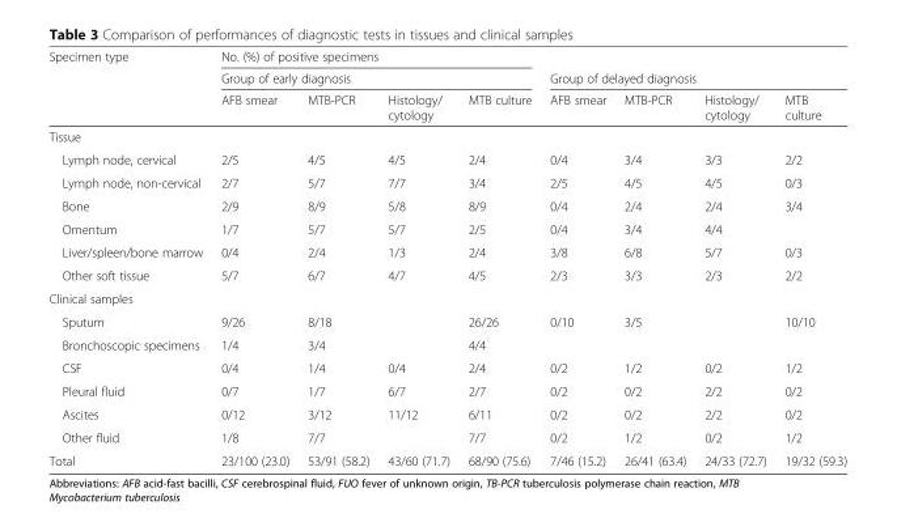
<table><thead><tr><td rowspan="3">Specimen type</td><td rowspan="2" colspan="4">No. (%) of positive specimens Group of early diagnosis</td><td></td><td></td><td></td><td></td></tr><tr><td colspan="4">Group of delayed diagnosis</td></tr><tr><td>AFB smear</td><td>MTB-PCR</td><td>Histology/ cytology</td><td>MTB culture</td><td>AFB smear</td><td>MTB-PCR</td><td>Histology/ cytology</td><td>MTB culture</td></tr></thead><tbody><tr><td colspan="9">Tissue</td></tr><tr><td>Lymph node, cervical</td><td>2/5</td><td>4/5</td><td>4/5</td><td>2/4</td><td>0/4</td><td>3/4</td><td>3/3</td><td>2/2</td></tr><tr><td>Lymph node, non-cervical</td><td>2/7</td><td>5/7</td><td>7/7</td><td>3/4</td><td>2/5</td><td>4/5</td><td>4/5</td><td>0/3</td></tr><tr><td>Bone</td><td>2/9</td><td>8/9</td><td>5/8</td><td>8/9</td><td>0/4</td><td>2/4</td><td>2/4</td><td>3/4</td></tr><tr><td>Omentum</td><td>1/7</td><td>5/7</td><td>5/7</td><td>2/5</td><td>0/4</td><td>3/4</td><td>4/4</td><td></td></tr><tr><td>Liver/spleen/bone marrow</td><td>0/4</td><td>2/4</td><td>1/3</td><td>2/4</td><td>3/8</td><td>6/8</td><td>5/7</td><td>0/3</td></tr><tr><td>Other soft tissue</td><td>5/7</td><td>6/7</td><td>4/7</td><td>4/5</td><td>2/3</td><td>3/3</td><td>2/3</td><td>2/2</td></tr><tr><td colspan="9">Clinical samples</td></tr><tr><td>Sputum</td><td>9/26</td><td>8/18</td><td></td><td>26/26</td><td>0/10</td><td>3/5</td><td></td><td>10/10</td></tr><tr><td>Bronchoscopic specimens</td><td>1/4</td><td>3/4</td><td></td><td>4/4</td><td></td><td></td><td></td><td></td></tr><tr><td>CSF</td><td>0/4</td><td>1/4</td><td>0/4</td><td>2/4</td><td>0/2</td><td>1/2</td><td>0/2</td><td>1/2</td></tr><tr><td>Pleural fluid</td><td>0/7</td><td>1/7</td><td>6/7</td><td>2/7</td><td>0/2</td><td>0/2</td><td>2/2</td><td>0/2</td></tr><tr><td>Ascites</td><td>0/12</td><td>3/12</td><td>11/12</td><td>6/11</td><td>0/2</td><td>0/2</td><td>2/2</td><td>0/2</td></tr><tr><td>Other fluid</td><td>1/8</td><td>7/7</td><td></td><td>7/7</td><td>0/2</td><td>1/2</td><td>0/2</td><td>1/2</td></tr><tr><td>Total</td><td>23/100 (23.0)</td><td>53/91 (58.2)</td><td>43/60 (71.7)</td><td>68/90 (75.6)</td><td>7/46 (15.2)</td><td>26/41 (63.4)</td><td>24/33 (72.7)</td><td>19/32 (59.3)</td></tr></tbody></table>